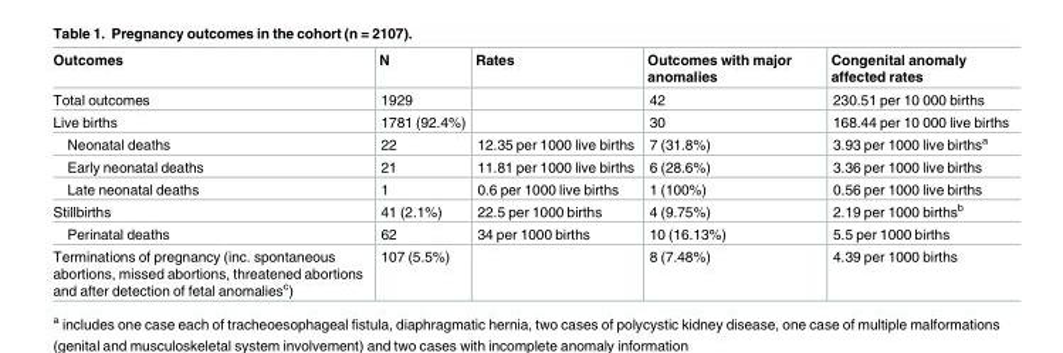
<table><thead><tr><td>Outcomes</td><td>N</td><td>Rates</td><td>Outcomes with major anomalies</td><td>Congenital anomaly affected rates</td></tr></thead><tbody><tr><td>Total outcomes</td><td>1929</td><td></td><td>42</td><td>230.51 per 10 000 births</td></tr><tr><td>Live births</td><td>1781 (92.4%)</td><td></td><td>30</td><td>168.44 per 10 000 live births</td></tr><tr><td>Neonatal deaths</td><td>22</td><td>12.35 per 1000 live births</td><td>7 (31.8%)</td><td>3.93 per 1000 live births<sup>a</sup></td></tr><tr><td>Early neonatal deaths</td><td>21</td><td>11.81 per 1000 live births</td><td>6 (28.6%)</td><td>3.36 per 1000 live births</td></tr><tr><td>Late neonatal deaths</td><td>1</td><td>0.6 per 1000 live births</td><td>1 (100%)</td><td>0.56 per 1000 live births</td></tr><tr><td>Stillbirths</td><td>41 (2.1%)</td><td>22.5 per 1000 births</td><td>4 (9.75%)</td><td>2.19 per 1000 births<sup>b</sup></td></tr><tr><td>Perinatal deaths</td><td>62</td><td>34 per 1000 births</td><td>10 (16.13%)</td><td>5.5 per 1000 births</td></tr><tr><td>Terminations of pregnancy (inc. spontaneous abortions, missed abortions, threatened abortions and after detection of fetal anomalies<sup>c</sup>)</td><td>107 (5.5%)</td><td></td><td>8 (7.48%)</td><td>4.39 per 1000 births</td></tr></tbody></table>